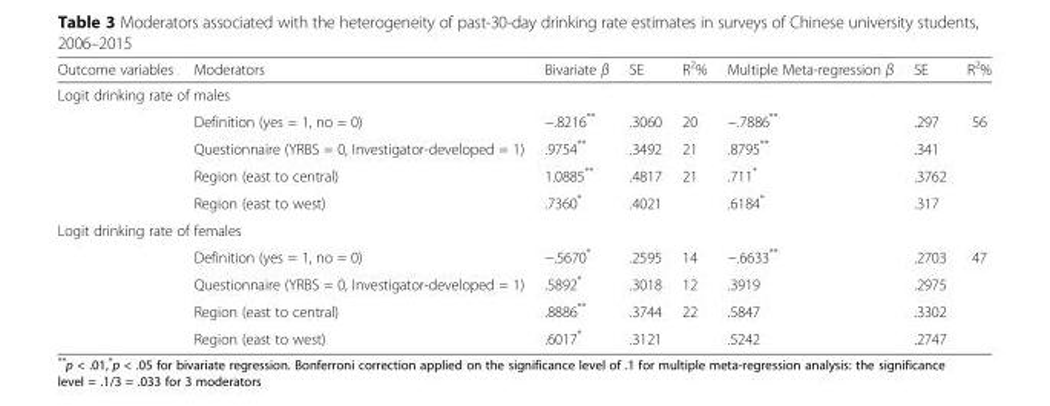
<table><thead><tr><td>Outcome variables</td><td>Moderators</td><td>Bivariate β</td><td>SE</td><td>R<sup>2</sup>%</td><td>Multiple Meta-regression β</td><td>SE</td><td>R<sup>2</sup>%</td></tr></thead><tbody><tr><td colspan="8">Logit drinking rate of males</td></tr><tr><td></td><td>Definition (yes = 1, no = 0)</td><td>−.8216**</td><td>.3060</td><td>20</td><td>−.7886**</td><td>.297</td><td>56</td></tr><tr><td></td><td>Questionnaire (YRBS = 0, Investigator-developed = 1)</td><td>.9754**</td><td>.3492</td><td>21</td><td>.8795**</td><td>.341</td><td></td></tr><tr><td></td><td>Region (east to central)</td><td>1.0885**</td><td>.4817</td><td>21</td><td>.711*</td><td>.3762</td><td></td></tr><tr><td></td><td>Region (east to west)</td><td>.7360*</td><td>.4021</td><td></td><td>.6184*</td><td>.317</td><td></td></tr><tr><td colspan="8">Logit drinking rate of females</td></tr><tr><td></td><td>Definition (yes = 1, no = 0)</td><td>−.5670*</td><td>.2595</td><td>14</td><td>−.6633**</td><td>.2703</td><td>47</td></tr><tr><td></td><td>Questionnaire (YRBS = 0, Investigator-developed = 1)</td><td>.5892*</td><td>.3018</td><td>12</td><td>.3919</td><td>.2975</td><td></td></tr><tr><td></td><td>Region (east to central)</td><td>.8886**</td><td>.3744</td><td>22</td><td>.5847</td><td>.3302</td><td></td></tr><tr><td></td><td>Region (east to west)</td><td>.6017*</td><td>.3121</td><td></td><td>.5242</td><td>.2747</td><td></td></tr></tbody></table>